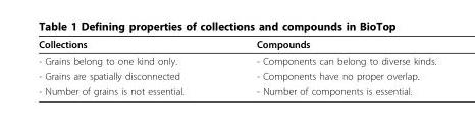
<table><thead><tr><td>Collections</td><td>Compounds</td></tr></thead><tbody><tr><td>- Grains belong to one kind only.</td><td>- Components can belong to diverse kinds.</td></tr><tr><td>- Grains are spatially disconnected</td><td>- Components have no proper overlap.</td></tr><tr><td>- Number of grains is not essential.</td><td>- Number of components is essential.</td></tr></tbody></table>